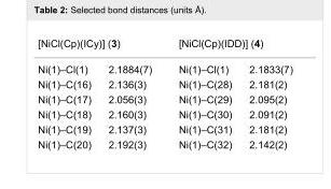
<table><tbody><tr><td colspan="2">[NiCl(Cp)(ICy)] (3)</td><td colspan="2">[NiCl(Cp)(IDD)] (4)</td></tr><tr><td>Ni(1)–Cl(1)</td><td>2.1884(7)</td><td>Ni(1)–Cl(1)</td><td>2.1833(7)</td></tr><tr><td>Ni(1)–C(16)</td><td>2.136(3)</td><td>Ni(1)–C(28)</td><td>2.181(2)</td></tr><tr><td>Ni(1)–C(17)</td><td>2.056(3)</td><td>Ni(1)–C(29)</td><td>2.095(2)</td></tr><tr><td>Ni(1)–C(18)</td><td>2.160(3)</td><td>Ni(1)–C(30)</td><td>2.091(2)</td></tr><tr><td>Ni(1)–C(19)</td><td>2.137(3)</td><td>Ni(1)–C(31)</td><td>2.181(2)</td></tr><tr><td>Ni(1)–C(20)</td><td>2.192(3)</td><td>Ni(1)–C(32)</td><td>2.142(2)</td></tr></tbody></table>